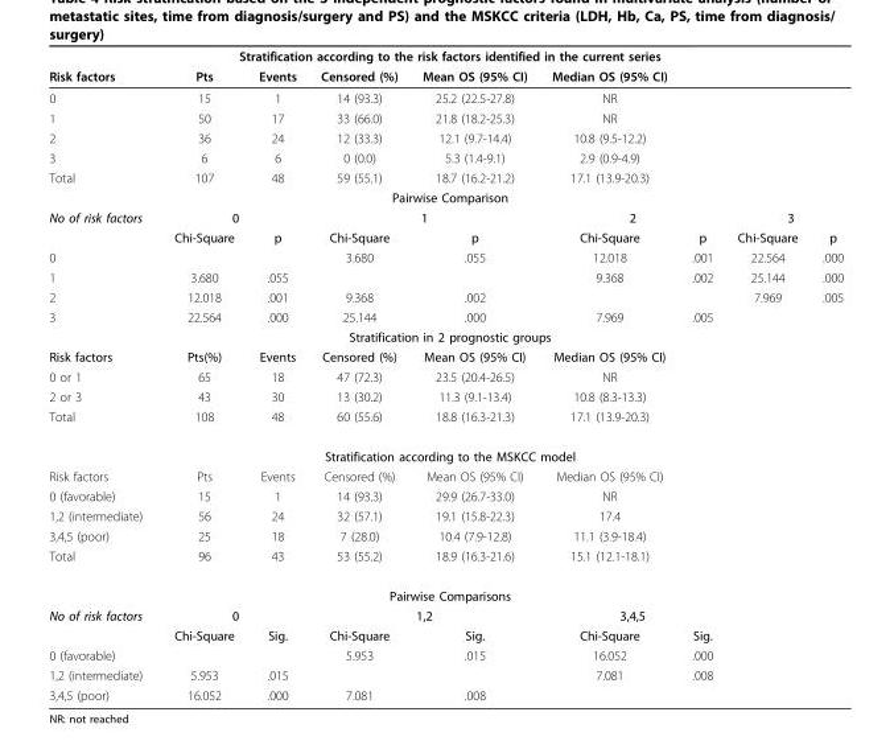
<table><thead><tr><td colspan="9">Stratification according to the risk factors identified in the current series</td></tr><tr><td>Risk factors</td><td>Pts</td><td>Events</td><td>Censored (%)</td><td>Mean OS (95% CI)</td><td>Median OS (95% CI)</td><td></td><td></td><td></td></tr></thead><tbody><tr><td>0</td><td>15</td><td>1</td><td>14 (93.3)</td><td>25.2 (22.5-27.8)</td><td>NR</td><td></td><td></td><td></td></tr><tr><td>1</td><td>50</td><td>17</td><td>33 (66.0)</td><td>21.8 (18.2-25.3)</td><td>NR</td><td></td><td></td><td></td></tr><tr><td>2</td><td>36</td><td>24</td><td>12 (33.3)</td><td>12.1 (9.7-14.4)</td><td>10.8 (9.5-12.2)</td><td></td><td></td><td></td></tr><tr><td>3</td><td>6</td><td>6</td><td>0 (0.0)</td><td>5.3 (1.4-9.1)</td><td>2.9 (0.9-4.9)</td><td></td><td></td><td></td></tr><tr><td>Total</td><td>107</td><td>48</td><td>59 (55.1)</td><td>18.7 (16.2-21.2)</td><td>17.1 (13.9-20.3)</td><td></td><td></td><td></td></tr><tr><td colspan="9">Pairwise Comparison</td></tr><tr><td rowspan="2">No of risk factors</td><td colspan="2">0</td><td colspan="2">1</td><td colspan="2">2</td><td colspan="2">3</td></tr><tr><td>Chi-Square</td><td>p</td><td>Chi-Square</td><td>p</td><td>Chi-Square</td><td>p</td><td>Chi-Square</td><td>p</td></tr><tr><td>0</td><td></td><td></td><td>3.680</td><td>.055</td><td>12.018</td><td>.001</td><td>22.564</td><td>.000</td></tr><tr><td>1</td><td>3.680</td><td>.055</td><td></td><td></td><td>9.368</td><td>.002</td><td>25.144</td><td>.000</td></tr><tr><td>2</td><td>12.018</td><td>.001</td><td>9.368</td><td>.002</td><td></td><td></td><td>7.969</td><td>.005</td></tr><tr><td>3</td><td>22.564</td><td>.000</td><td>25.144</td><td>.000</td><td>7.969</td><td>.005</td><td></td><td></td></tr><tr><td colspan="9">Stratification in 2 prognostic groups</td></tr><tr><td>Risk factors</td><td>Pts(%)</td><td>Events</td><td>Censored (%)</td><td>Mean OS (95% CI)</td><td>Median OS (95% CI)</td><td></td><td></td><td></td></tr><tr><td>0 or 1</td><td>65</td><td>18</td><td>47 (72.3)</td><td>23.5 (20.4-26.5)</td><td>NR</td><td></td><td></td><td></td></tr><tr><td>2 or 3</td><td>43</td><td>30</td><td>13 (30.2)</td><td>11.3 (9.1-13.4)</td><td>10.8 (8.3-13.3)</td><td></td><td></td><td></td></tr><tr><td>Total</td><td>108</td><td>48</td><td>60 (55.6)</td><td>18.8 (16.3-21.3)</td><td>17.1 (13.9-20.3)</td><td></td><td></td><td></td></tr><tr><td colspan="9">Stratification according to the MSKCC model</td></tr><tr><td>Risk factors</td><td>Pts</td><td>Events</td><td>Censored (%)</td><td>Mean OS (95% CI)</td><td>Median OS (95% CI)</td><td></td><td></td><td></td></tr><tr><td>0 (favorable)</td><td>15</td><td>1</td><td>14 (93.3)</td><td>29.9 (26.7-33.0)</td><td>NR</td><td></td><td></td><td></td></tr><tr><td>1,2 (intermediate)</td><td>56</td><td>24</td><td>32 (57.1)</td><td>19.1 (15.8-22.3)</td><td>17.4</td><td></td><td></td><td></td></tr><tr><td>3,4,5 (poor)</td><td>25</td><td>18</td><td>7 (28.0)</td><td>10.4 (7.9-12.8)</td><td>11.1 (3.9-18.4)</td><td></td><td></td><td></td></tr><tr><td>Total</td><td>96</td><td>43</td><td>53 (55.2)</td><td>18.9 (16.3-21.6)</td><td>15.1 (12.1-18.1)</td><td></td><td></td><td></td></tr><tr><td colspan="9">Pairwise Comparisons</td></tr><tr><td rowspan="2">No of risk factors</td><td colspan="2">0</td><td colspan="2">1,2</td><td colspan="2">3,4,5</td><td></td><td></td></tr><tr><td>Chi-Square</td><td>Sig.</td><td>Chi-Square</td><td>Sig.</td><td>Chi-Square</td><td>Sig.</td><td></td><td></td></tr><tr><td>0 (favorable)</td><td></td><td></td><td>5.953</td><td>.015</td><td>16.052</td><td>.000</td><td></td><td></td></tr><tr><td>1,2 (intermediate)</td><td>5.953</td><td>.015</td><td></td><td></td><td>7.081</td><td>.008</td><td></td><td></td></tr><tr><td>3,4,5 (poor)</td><td>16.052</td><td>.000</td><td>7.081</td><td>.008</td><td></td><td></td><td></td><td></td></tr></tbody></table>